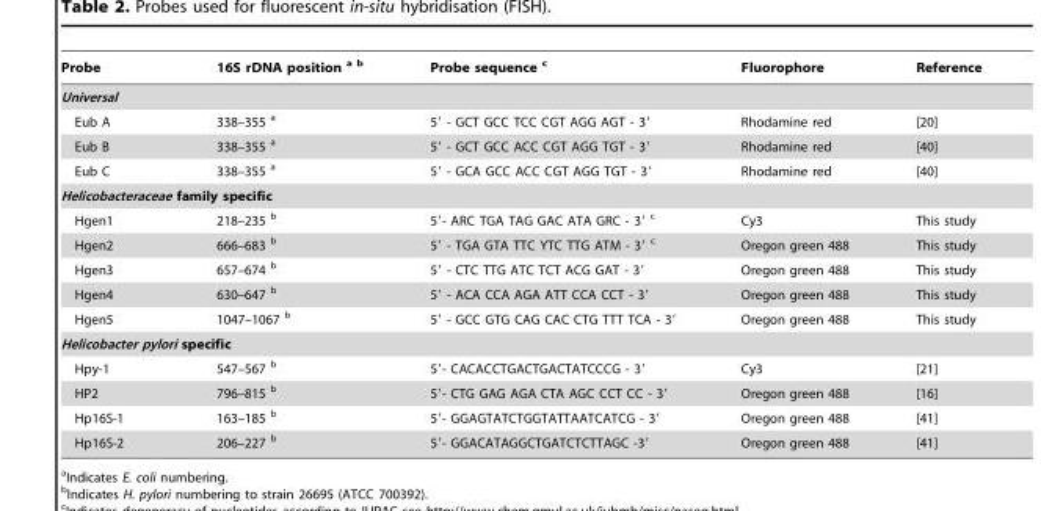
<table><thead><tr><td>Probe</td><td>16S rDNA position a b</td><td>Probe sequence c</td><td>Fluorophore</td><td>Reference</td></tr></thead><tbody><tr><td colspan="5">Universal</td></tr><tr><td>Eub A</td><td>338–355 a</td><td>5′ - GCT GCC TCC CGT AGG AGT - 3′</td><td>Rhodamine red</td><td>[20]</td></tr><tr><td>Eub B</td><td>338–355 a</td><td>5′ - GCT GCC ACC CGT AGG TGT - 3′</td><td>Rhodamine red</td><td>[40]</td></tr><tr><td>Eub C</td><td>338–355 a</td><td>5′ - GCA GCC ACC CGT AGG TGT - 3′</td><td>Rhodamine red</td><td>[40]</td></tr><tr><td colspan="5">Helicobacteraceae family specific</td></tr><tr><td>Hgen1</td><td>218–235 b</td><td>5′- ARC TGA TAG GAC ATA GRC - 3′ c</td><td>Cy3</td><td>This study</td></tr><tr><td>Hgen2</td><td>666–683 b</td><td>5′ - TGA GTA TTC YTC TTG ATM - 3′ c</td><td>Oregon green 488</td><td>This study</td></tr><tr><td>Hgen3</td><td>657–674 b</td><td>5′ - CTC TTG ATC TCT ACG GAT - 3′</td><td>Oregon green 488</td><td>This study</td></tr><tr><td>Hgen4</td><td>630–647 b</td><td>5′ - ACA CCA AGA ATT CCA CCT - 3′</td><td>Oregon green 488</td><td>This study</td></tr><tr><td>Hgen5</td><td>1047–1067 b</td><td>5′ - GCC GTG CAG CAC CTG TTT TCA - 3′</td><td>Oregon green 488</td><td>This study</td></tr><tr><td colspan="5">Helicobacter pylori specific</td></tr><tr><td>Hpy-1</td><td>547–567 b</td><td>5′- CACACCTGACTGACTATCCCG - 3′</td><td>Cy3</td><td>[21]</td></tr><tr><td>HP2</td><td>796–815 b</td><td>5′- CTG GAG AGA CTA AGC CCT CC - 3′</td><td>Oregon green 488</td><td>[16]</td></tr><tr><td>Hp16S-1</td><td>163–185 b</td><td>5′- GGAGTATCTGGTATTAATCATCG - 3′</td><td>Oregon green 488</td><td>[41]</td></tr><tr><td>Hp16S-2</td><td>206–227 b</td><td>5′- GGACATAGGCTGATCTCTTAGC -3′</td><td>Oregon green 488</td><td>[41]</td></tr></tbody></table>